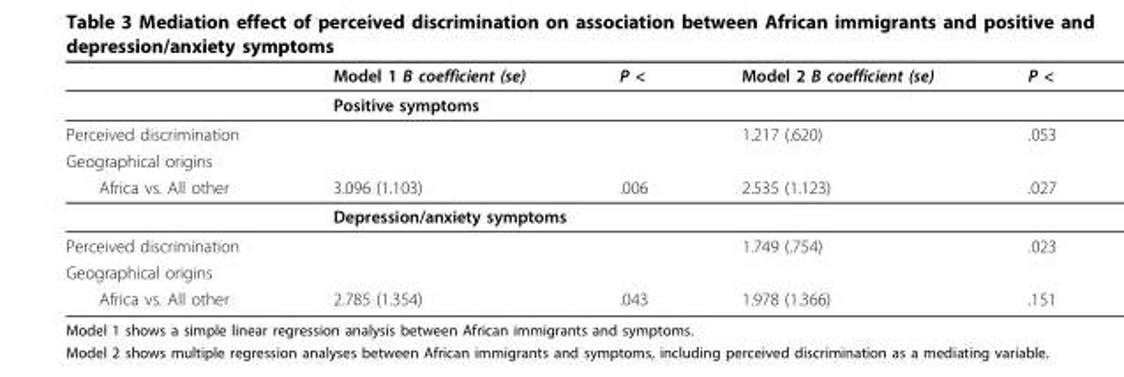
<table><thead><tr><td></td><td>Model 1 B coefficient (se)</td><td>P &lt;</td><td>Model 2 B coefficient (se)</td><td>P &lt;</td></tr></thead><tbody><tr><td></td><td colspan="4">Positive symptoms</td></tr><tr><td>Perceived discrimination</td><td></td><td></td><td>1.217 (.620)</td><td>.053</td></tr><tr><td colspan="5">Geographical origins</td></tr><tr><td rowspan="2">Africa vs. All other</td><td>3.096 (1.103)</td><td>.006</td><td>2.535 (1.123)</td><td>.027</td></tr><tr><td colspan="4">Depression/anxiety symptoms</td></tr><tr><td>Perceived discrimination</td><td></td><td></td><td>1.749 (.754)</td><td>.023</td></tr><tr><td colspan="5">Geographical origins</td></tr><tr><td>Africa vs. All other</td><td>2.785 (1.354)</td><td>.043</td><td>1.978 (1.366)</td><td>.151</td></tr></tbody></table>